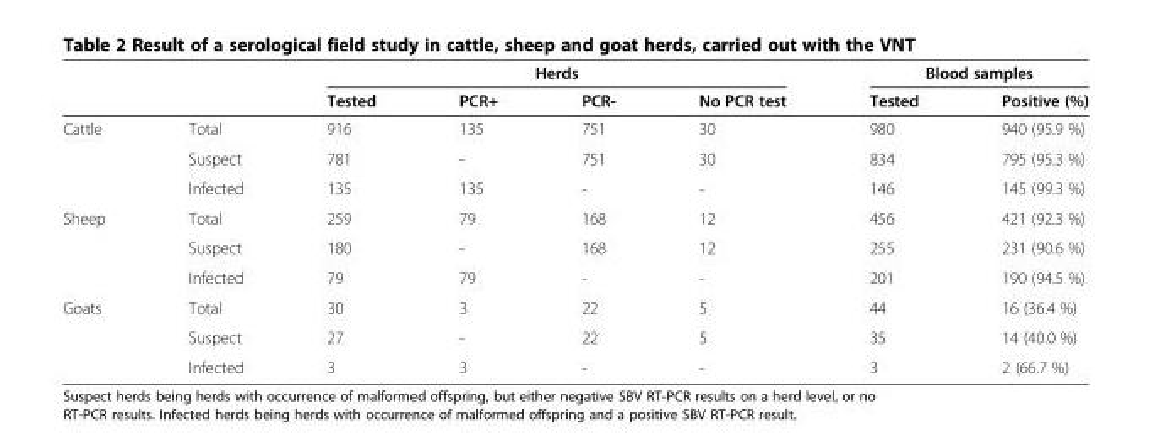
<table><thead><tr><td rowspan="2"></td><td rowspan="2"></td><td colspan="4">Herds</td><td colspan="2">Blood samples</td></tr><tr><td>Tested</td><td>PCR+</td><td>PCR-</td><td>No PCR test</td><td>Tested</td><td>Positive (%)</td></tr></thead><tbody><tr><td rowspan="3">Cattle</td><td>Total</td><td>916</td><td>135</td><td>751</td><td>30</td><td>980</td><td>940 (95.9 %)</td></tr><tr><td>Suspect</td><td>781</td><td>-</td><td>751</td><td>30</td><td>834</td><td>795 (95.3 %)</td></tr><tr><td>Infected</td><td>135</td><td>135</td><td>-</td><td>-</td><td>146</td><td>145 (99.3 %)</td></tr><tr><td rowspan="3">Sheep</td><td>Total</td><td>259</td><td>79</td><td>168</td><td>12</td><td>456</td><td>421 (92.3 %)</td></tr><tr><td>Suspect</td><td>180</td><td>-</td><td>168</td><td>12</td><td>255</td><td>231 (90.6 %)</td></tr><tr><td>Infected</td><td>79</td><td>79</td><td>-</td><td>-</td><td>201</td><td>190 (94.5 %)</td></tr><tr><td rowspan="3">Goats</td><td>Total</td><td>30</td><td>3</td><td>22</td><td>5</td><td>44</td><td>16 (36.4 %)</td></tr><tr><td>Suspect</td><td>27</td><td>-</td><td>22</td><td>5</td><td>35</td><td>14 (40.0 %)</td></tr><tr><td>Infected</td><td>3</td><td>3</td><td>-</td><td>-</td><td>3</td><td>2 (66.7 %)</td></tr></tbody></table>